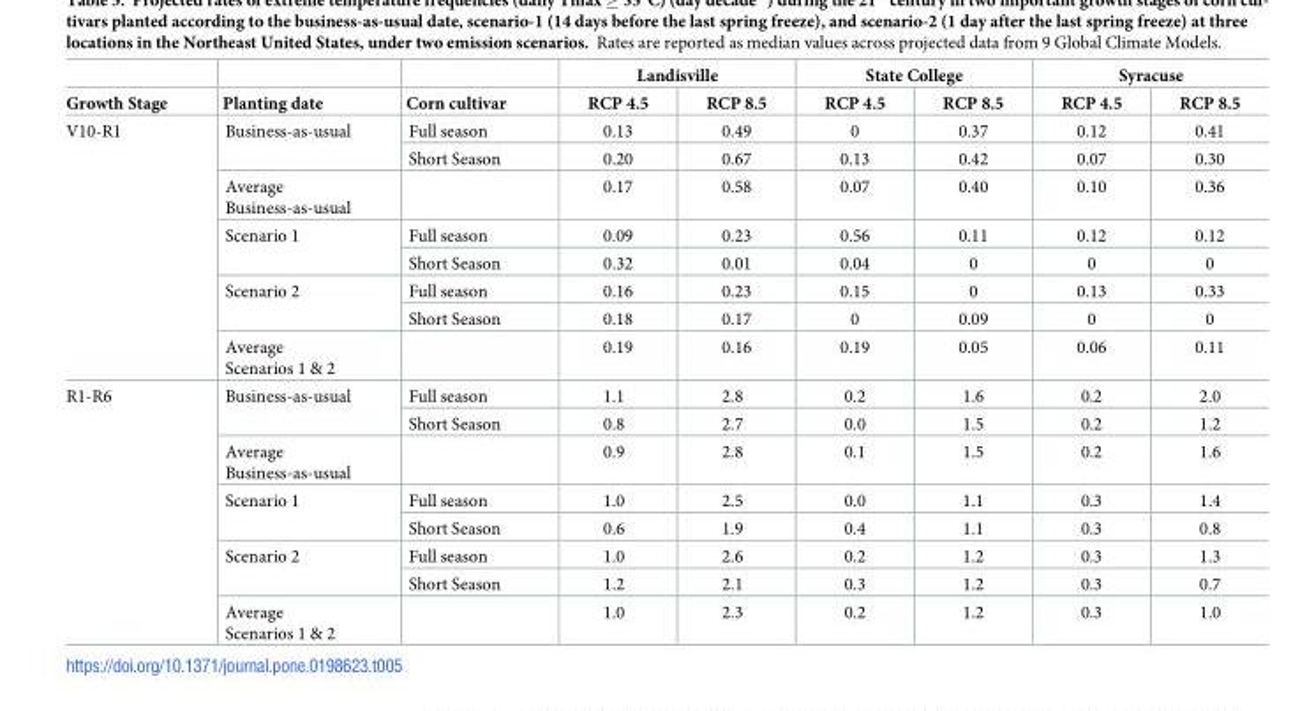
<table><thead><tr><td rowspan="2">Growth Stage</td><td rowspan="2">Planting date</td><td rowspan="2">Corn cultivar</td><td colspan="2">Landisville</td><td colspan="2">State College</td><td colspan="2">Syracuse</td></tr><tr><td>RCP 4.5</td><td>RCP 8.5</td><td>RCP 4.5</td><td>RCP 8.5</td><td>RCP 4.5</td><td>RCP 8.5</td></tr></thead><tbody><tr><td rowspan="8">V10-R1</td><td rowspan="2">Business-as-usual</td><td>Full season</td><td>0.13</td><td>0.49</td><td>0</td><td>0.37</td><td>0.12</td><td>0.41</td></tr><tr><td>Short Season</td><td>0.20</td><td>0.67</td><td>0.13</td><td>0.42</td><td>0.07</td><td>0.30</td></tr><tr><td>Average Business-as-usual</td><td></td><td>0.17</td><td>0.58</td><td>0.07</td><td>0.40</td><td>0.10</td><td>0.36</td></tr><tr><td rowspan="2">Scenario 1</td><td>Full season</td><td>0.09</td><td>0.23</td><td>0.56</td><td>0.11</td><td>0.12</td><td>0.12</td></tr><tr><td>Short Season</td><td>0.32</td><td>0.01</td><td>0.04</td><td>0</td><td>0</td><td>0</td></tr><tr><td rowspan="2">Scenario 2</td><td>Full season</td><td>0.16</td><td>0.23</td><td>0.15</td><td>0</td><td>0.13</td><td>0.33</td></tr><tr><td>Short Season</td><td>0.18</td><td>0.17</td><td>0</td><td>0.09</td><td>0</td><td>0</td></tr><tr><td>Average Scenarios 1 &amp; 2</td><td></td><td>0.19</td><td>0.16</td><td>0.19</td><td>0.05</td><td>0.06</td><td>0.11</td></tr><tr><td rowspan="8">R1-R6</td><td rowspan="2">Business-as-usual</td><td>Full season</td><td>1.1</td><td>2.8</td><td>0.2</td><td>1.6</td><td>0.2</td><td>2.0</td></tr><tr><td>Short Season</td><td>0.8</td><td>2.7</td><td>0.0</td><td>1.5</td><td>0.2</td><td>1.2</td></tr><tr><td>Average Business-as-usual</td><td></td><td>0.9</td><td>2.8</td><td>0.1</td><td>1.5</td><td>0.2</td><td>1.6</td></tr><tr><td rowspan="2">Scenario 1</td><td>Full season</td><td>1.0</td><td>2.5</td><td>0.0</td><td>1.1</td><td>0.3</td><td>1.4</td></tr><tr><td>Short Season</td><td>0.6</td><td>1.9</td><td>0.4</td><td>1.1</td><td>0.3</td><td>0.8</td></tr><tr><td rowspan="2">Scenario 2</td><td>Full season</td><td>1.0</td><td>2.6</td><td>0.2</td><td>1.2</td><td>0.3</td><td>1.3</td></tr><tr><td>Short Season</td><td>1.2</td><td>2.1</td><td>0.3</td><td>1.2</td><td>0.3</td><td>0.7</td></tr><tr><td>Average Scenarios 1 &amp; 2</td><td></td><td>1.0</td><td>2.3</td><td>0.2</td><td>1.2</td><td>0.3</td><td>1.0</td></tr></tbody></table>